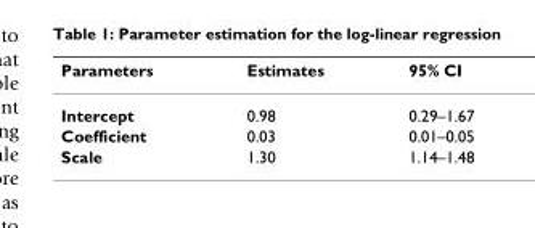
<table><thead><tr><td>Parameters</td><td>Estimates</td><td>95% CI</td></tr></thead><tbody><tr><td>Intercept</td><td>0.98</td><td>0.29–1.67</td></tr><tr><td>Coefficient</td><td>0.03</td><td>0.01–0.05</td></tr><tr><td>Scale</td><td>1.30</td><td>1.14–1.48</td></tr></tbody></table>